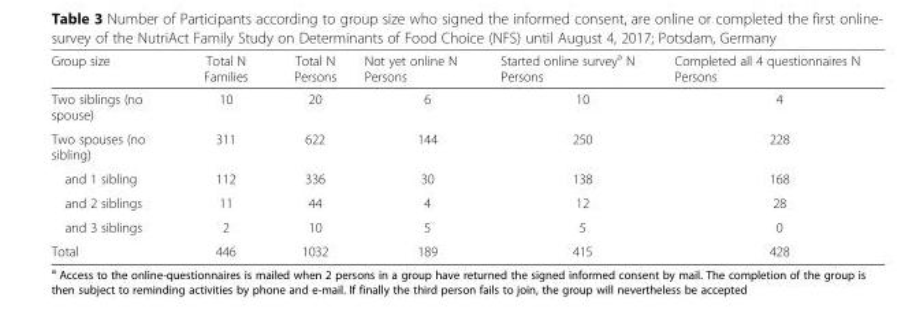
<table><thead><tr><td>Group size</td><td>Total N Families</td><td>Total N Persons</td><td>Not yet online N Persons</td><td>Started online survey<sup>a</sup> N Persons</td><td>Completed all 4 questionnaires N Persons</td></tr></thead><tbody><tr><td>Two siblings (no spouse)</td><td>10</td><td>20</td><td>6</td><td>10</td><td>4</td></tr><tr><td>Two spouses (no sibling)</td><td>311</td><td>622</td><td>144</td><td>250</td><td>228</td></tr><tr><td>and 1 sibling</td><td>112</td><td>336</td><td>30</td><td>138</td><td>168</td></tr><tr><td>and 2 siblings</td><td>11</td><td>44</td><td>4</td><td>12</td><td>28</td></tr><tr><td>and 3 siblings</td><td>2</td><td>10</td><td>5</td><td>5</td><td>0</td></tr><tr><td>Total</td><td>446</td><td>1032</td><td>189</td><td>415</td><td>428</td></tr></tbody></table>